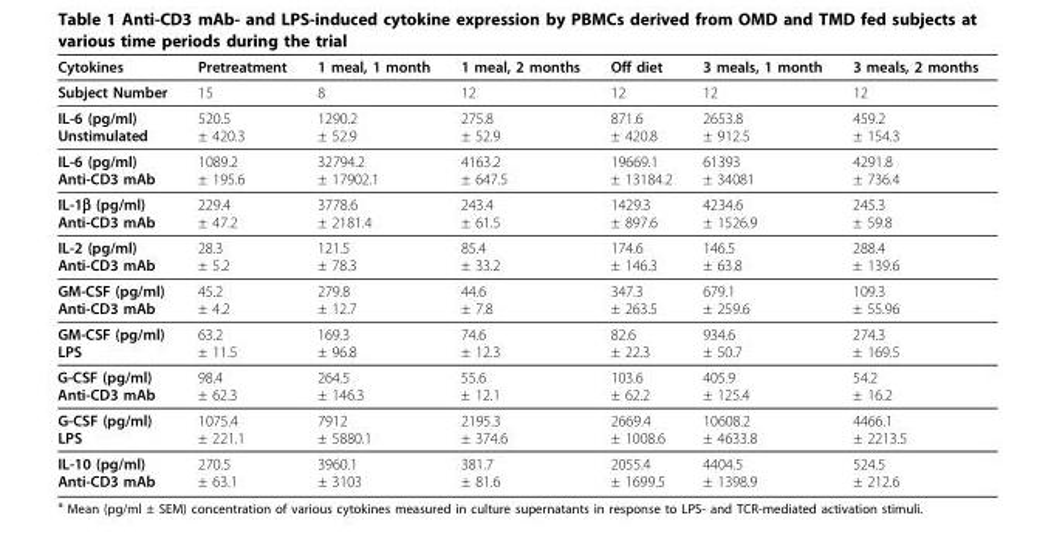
<table><thead><tr><td>Cytokines</td><td>Pretreatment</td><td>1 meal, 1 month</td><td>1 meal, 2 months</td><td>Off diet</td><td>3 meals, 1 month</td><td>3 meals, 2 months</td></tr></thead><tbody><tr><td>Subject Number</td><td>15</td><td>8</td><td>12</td><td>12</td><td>12</td><td>12</td></tr><tr><td>IL-6 (pg/ml) Unstimulated</td><td>520.5 ± 420.3</td><td>1290.2 ± 52.9</td><td>275.8 ± 52.9</td><td>871.6 ± 420.8</td><td>2653.8 ± 912.5</td><td>459.2 ± 154.3</td></tr><tr><td>IL-6 (pg/ml) Anti-CD3 mAb</td><td>1089.2 ± 195.6</td><td>32794.2 ± 17902.1</td><td>4163.2 ± 647.5</td><td>19669.1 ± 13184.2</td><td>61393 ± 34081</td><td>4291.8 ± 736.4</td></tr><tr><td>IL-1β (pg/ml) Anti-CD3 mAb</td><td>229.4 ± 47.2</td><td>3778.6 ± 2181.4</td><td>243.4 ± 61.5</td><td>1429.3 ± 897.6</td><td>4234.6 ± 1526.9</td><td>245.3 ± 59.8</td></tr><tr><td>IL-2 (pg/ml) Anti-CD3 mAb</td><td>28.3 ± 5.2</td><td>121.5 ± 78.3</td><td>85.4 ± 33.2</td><td>174.6 ± 146.3</td><td>146.5 ± 63.8</td><td>288.4 ± 139.6</td></tr><tr><td>GM-CSF (pg/ml) Anti-CD3 mAb</td><td>45.2 ± 4.2</td><td>279.8 ± 12.7</td><td>44.6 ± 7.8</td><td>347.3 ± 263.5</td><td>679.1 ± 259.6</td><td>109.3 ± 55.96</td></tr><tr><td>GM-CSF (pg/ml) LPS</td><td>63.2 ± 11.5</td><td>169.3 ± 96.8</td><td>74.6 ± 12.3</td><td>82.6 ± 22.3</td><td>934.6 ± 50.7</td><td>274.3 ± 169.5</td></tr><tr><td>G-CSF (pg/ml) Anti-CD3 mAb</td><td>98.4 ± 62.3</td><td>264.5 ± 146.3</td><td>55.6 ± 12.1</td><td>103.6 ± 62.2</td><td>405.9 ± 125.4</td><td>54.2 ± 16.2</td></tr><tr><td>G-CSF (pg/ml) LPS</td><td>1075.4 ± 221.1</td><td>7912 ± 5880.1</td><td>2195.3 ± 374.6</td><td>2669.4 ± 1008.6</td><td>10608.2 ± 4633.8</td><td>4466.1 ± 2213.5</td></tr><tr><td>IL-10 (pg/ml) Anti-CD3 mAb</td><td>270.5 ± 63.1</td><td>3960.1 ± 3103</td><td>381.7 ± 81.6</td><td>2055.4 ± 1699.5</td><td>4404.5 ± 1398.9</td><td>524.5 ± 212.6</td></tr></tbody></table>